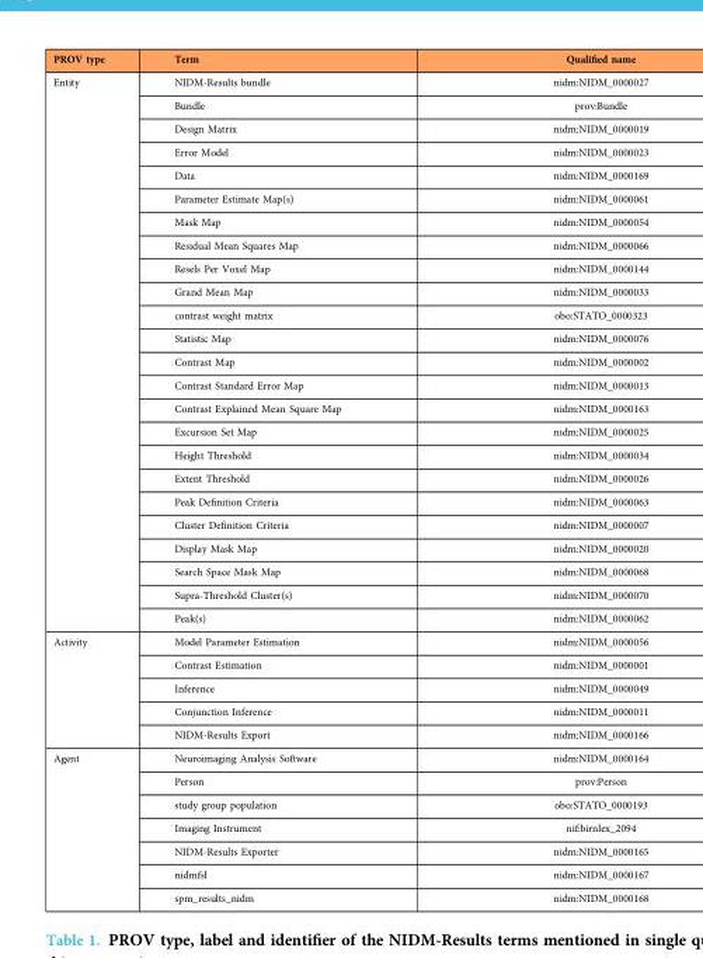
<table><thead><tr><td>PROV type</td><td>Term</td><td>Qualified name</td></tr></thead><tbody><tr><td rowspan="24">Entity</td><td>NIDM-Results bundle</td><td>nidm:NIDM_0000027</td></tr><tr><td>Bundle</td><td>prov:Bundle</td></tr><tr><td>Design Matrix</td><td>nidm:NIDM_0000019</td></tr><tr><td>Error Model</td><td>nidm:NIDM_0000023</td></tr><tr><td>Data</td><td>nidm:NIDM_0000169</td></tr><tr><td>Parameter Estimate Map(s)</td><td>nidm:NIDM_0000061</td></tr><tr><td>Mask Map</td><td>nidm:NIDM_0000054</td></tr><tr><td>Residual Mean Squares Map</td><td>nidm:NIDM_0000066</td></tr><tr><td>Resels Per Voxel Map</td><td>nidm:NIDM_0000144</td></tr><tr><td>Grand Mean Map</td><td>nidm:NIDM_0000033</td></tr><tr><td>contrast weight matrix</td><td>obo:STATO_0000323</td></tr><tr><td>Statistic Map</td><td>nidm:NIDM_0000076</td></tr><tr><td>Contrast Map</td><td>nidm:NIDM_0000002</td></tr><tr><td>Contrast Standard Error Map</td><td>nidm:NIDM_0000013</td></tr><tr><td>Contrast Explained Mean Square Map</td><td>nidm:NIDM_0000163</td></tr><tr><td>Excursion Set Map</td><td>nidm:NIDM_0000025</td></tr><tr><td>Height Threshold</td><td>nidm:NIDM_0000034</td></tr><tr><td>Extent Threshold</td><td>nidm:NIDM_0000026</td></tr><tr><td>Peak Definition Criteria</td><td>nidm:NIDM_0000063</td></tr><tr><td>Cluster Definition Criteria</td><td>nidm:NIDM_0000007</td></tr><tr><td>Display Mask Map</td><td>nidm:NIDM_0000020</td></tr><tr><td>Search Space Mask Map</td><td>nidm:NIDM_0000068</td></tr><tr><td>Supra-Threshold Cluster(s)</td><td>nidm:NIDM_0000070</td></tr><tr><td>Peak(s)</td><td>nidm:NIDM_0000062</td></tr><tr><td rowspan="5">Activity</td><td>Model Parameter Estimation</td><td>nidm:NIDM_0000056</td></tr><tr><td>Contrast Estimation</td><td>nidm:NIDM_0000001</td></tr><tr><td>Inference</td><td>nidm:NIDM_0000049</td></tr><tr><td>Conjunction Inference</td><td>nidm:NIDM_0000011</td></tr><tr><td>NIDM-Results Export</td><td>nidm:NIDM_0000166</td></tr><tr><td rowspan="7">Agent</td><td>Neuroimaging Analysis Software</td><td>nidm:NIDM_0000164</td></tr><tr><td>Person</td><td>prov:Person</td></tr><tr><td>study group population</td><td>obo:STATO_0000193</td></tr><tr><td>Imaging Instrument</td><td>nif:birnlex_2094</td></tr><tr><td>NIDM-Results Exporter</td><td>nidm:NIDM_0000165</td></tr><tr><td>nidmfsl</td><td>nidm:NIDM_0000167</td></tr><tr><td>spm_results_nidm</td><td>nidm:NIDM_0000168</td></tr></tbody></table>